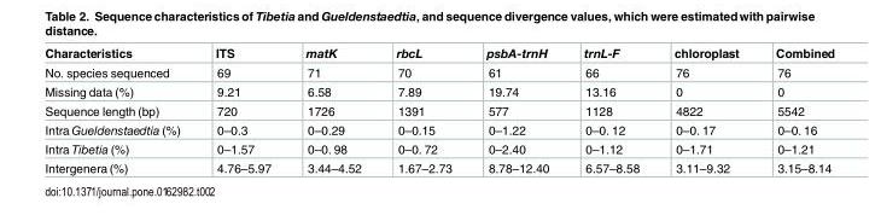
<table><thead><tr><td>Characteristics</td><td>ITS</td><td>matK</td><td>rbcL</td><td>psbA-trnH</td><td>trnL-F</td><td>chloroplast</td><td>Combined</td></tr></thead><tbody><tr><td>No. species sequenced</td><td>69</td><td>71</td><td>70</td><td>61</td><td>66</td><td>76</td><td>76</td></tr><tr><td>Missing data (%)</td><td>9.21</td><td>6.58</td><td>7.89</td><td>19.74</td><td>13.16</td><td>0</td><td>0</td></tr><tr><td>Sequence length (bp)</td><td>720</td><td>1726</td><td>1391</td><td>577</td><td>1128</td><td>4822</td><td>5542</td></tr><tr><td>Intra Gueldenstaedtia (%)</td><td>0–0.3</td><td>0–0.29</td><td>0–0.15</td><td>0–1.22</td><td>0–0. 12</td><td>0–0. 17</td><td>0–0. 16</td></tr><tr><td>Intra Tibetia (%)</td><td>0–1.57</td><td>0–0. 98</td><td>0–0. 72</td><td>0–2.40</td><td>0–1.12</td><td>0–1.71</td><td>0–1.21</td></tr><tr><td>Intergenera (%)</td><td>4.76–5.97</td><td>3.44–4.52</td><td>1.67–2.73</td><td>8.78–12.40</td><td>6.57–8.58</td><td>3.11–9.32</td><td>3.15–8.14</td></tr></tbody></table>